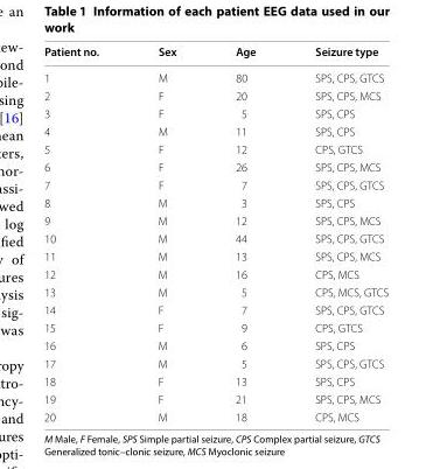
<table><thead><tr><td>Patient no.</td><td>Sex</td><td>Age</td><td>Seizure type</td></tr></thead><tbody><tr><td>1</td><td>M</td><td>80</td><td>SPS, CPS, GTCS</td></tr><tr><td>2</td><td>F</td><td>20</td><td>SPS, CPS, MCS</td></tr><tr><td>3</td><td>F</td><td>5</td><td>SPS, CPS</td></tr><tr><td>4</td><td>M</td><td>11</td><td>SPS, CPS</td></tr><tr><td>5</td><td>F</td><td>12</td><td>CPS, GTCS</td></tr><tr><td>6</td><td>F</td><td>26</td><td>SPS, CPS, MCS</td></tr><tr><td>7</td><td>F</td><td>7</td><td>SPS, CPS, GTCS</td></tr><tr><td>8</td><td>M</td><td>3</td><td>SPS, CPS</td></tr><tr><td>9</td><td>M</td><td>12</td><td>SPS, CPS, MCS</td></tr><tr><td>10</td><td>M</td><td>44</td><td>SPS, CPS, GTCS</td></tr><tr><td>11</td><td>M</td><td>13</td><td>SPS, CPS, MCS</td></tr><tr><td>12</td><td>M</td><td>16</td><td>CPS, MCS</td></tr><tr><td>13</td><td>M</td><td>5</td><td>CPS, MCS, GTCS</td></tr><tr><td>14</td><td>F</td><td>7</td><td>SPS, CPS, GTCS</td></tr><tr><td>15</td><td>F</td><td>9</td><td>CPS, GTCS</td></tr><tr><td>16</td><td>M</td><td>6</td><td>SPS, CPS</td></tr><tr><td>17</td><td>M</td><td>5</td><td>SPS, CPS, GTCS</td></tr><tr><td>18</td><td>F</td><td>13</td><td>SPS, CPS</td></tr><tr><td>19</td><td>F</td><td>21</td><td>SPS, CPS, MCS</td></tr><tr><td>20</td><td>M</td><td>18</td><td>CPS, MCS</td></tr></tbody></table>